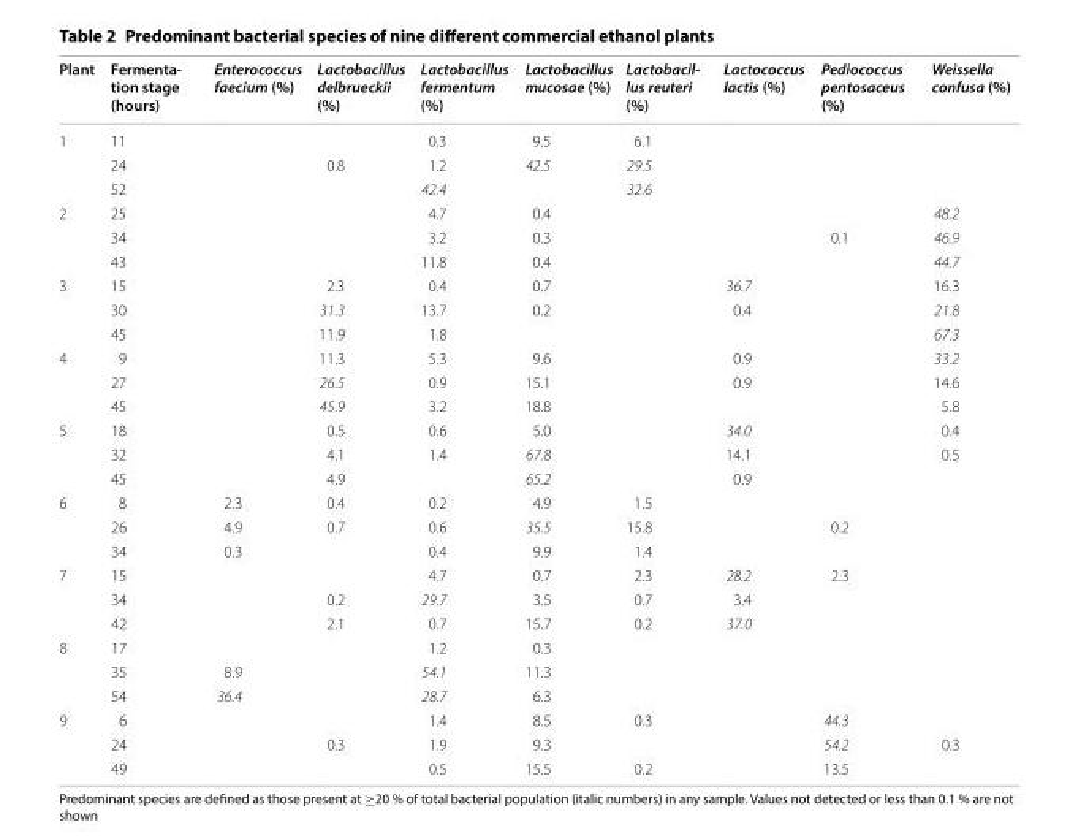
<table><thead><tr><td>Plant</td><td>Fermenta‑ tion stage (hours)</td><td>Enterococcus faecium (%)</td><td>Lactobacillus delbrueckii (%)</td><td>Lactobacillus fermentum (%)</td><td>Lactobacillus mucosae (%)</td><td>Lactobacil- lus reuteri (%)</td><td>Lactococcus lactis (%)</td><td>Pediococcus pentosaceus (%)</td><td>Weissella confusa (%)</td></tr></thead><tbody><tr><td rowspan="3">1</td><td>11</td><td></td><td></td><td>0.3</td><td>9.5</td><td>6.1</td><td></td><td></td><td></td></tr><tr><td>24</td><td></td><td>0.8</td><td>1.2</td><td>42.5</td><td>29.5</td><td></td><td></td><td></td></tr><tr><td>52</td><td></td><td></td><td>42.4</td><td></td><td>32.6</td><td></td><td></td><td></td></tr><tr><td rowspan="3">2</td><td>25</td><td></td><td></td><td>4.7</td><td>0.4</td><td></td><td></td><td></td><td>48.2</td></tr><tr><td>34</td><td></td><td></td><td>3.2</td><td>0.3</td><td></td><td></td><td>0.1</td><td>46.9</td></tr><tr><td>43</td><td></td><td></td><td>11.8</td><td>0.4</td><td></td><td></td><td></td><td>44.7</td></tr><tr><td rowspan="3">3</td><td>15</td><td></td><td>2.3</td><td>0.4</td><td>0.7</td><td></td><td>36.7</td><td></td><td>16.3</td></tr><tr><td>30</td><td></td><td>31.3</td><td>13.7</td><td>0.2</td><td></td><td>0.4</td><td></td><td>21.8</td></tr><tr><td>45</td><td></td><td>11.9</td><td>1.8</td><td></td><td></td><td></td><td></td><td>67.3</td></tr><tr><td rowspan="3">4</td><td>9</td><td></td><td>11.3</td><td>5.3</td><td>9.6</td><td></td><td>0.9</td><td></td><td>33.2</td></tr><tr><td>27</td><td></td><td>26.5</td><td>0.9</td><td>15.1</td><td></td><td>0.9</td><td></td><td>14.6</td></tr><tr><td>45</td><td></td><td>45.9</td><td>3.2</td><td>18.8</td><td></td><td></td><td></td><td>5.8</td></tr><tr><td rowspan="3">5</td><td>18</td><td></td><td>0.5</td><td>0.6</td><td>5.0</td><td></td><td>34.0</td><td></td><td>0.4</td></tr><tr><td>32</td><td></td><td>4.1</td><td>1.4</td><td>67.8</td><td></td><td>14.1</td><td></td><td>0.5</td></tr><tr><td>45</td><td></td><td>4.9</td><td></td><td>65.2</td><td></td><td>0.9</td><td></td><td></td></tr><tr><td rowspan="3">6</td><td>8</td><td>2.3</td><td>0.4</td><td>0.2</td><td>4.9</td><td>1.5</td><td></td><td></td><td></td></tr><tr><td>26</td><td>4.9</td><td>0.7</td><td>0.6</td><td>35.5</td><td>15.8</td><td></td><td>0.2</td><td></td></tr><tr><td>34</td><td>0.3</td><td></td><td>0.4</td><td>9.9</td><td>1.4</td><td></td><td></td><td></td></tr><tr><td rowspan="3">7</td><td>15</td><td></td><td></td><td>4.7</td><td>0.7</td><td>2.3</td><td>28.2</td><td>2.3</td><td></td></tr><tr><td>34</td><td></td><td>0.2</td><td>29.7</td><td>3.5</td><td>0.7</td><td>3.4</td><td></td><td></td></tr><tr><td>42</td><td></td><td>2.1</td><td>0.7</td><td>15.7</td><td>0.2</td><td>37.0</td><td></td><td></td></tr><tr><td rowspan="3">8</td><td>17</td><td></td><td></td><td>1.2</td><td>0.3</td><td></td><td></td><td></td><td></td></tr><tr><td>35</td><td>8.9</td><td></td><td>54.1</td><td>11.3</td><td></td><td></td><td></td><td></td></tr><tr><td>54</td><td>36.4</td><td></td><td>28.7</td><td>6.3</td><td></td><td></td><td></td><td></td></tr><tr><td rowspan="3">9</td><td>6</td><td></td><td></td><td>1.4</td><td>8.5</td><td>0.3</td><td></td><td>44.3</td><td></td></tr><tr><td>24</td><td></td><td>0.3</td><td>1.9</td><td>9.3</td><td></td><td></td><td>54.2</td><td>0.3</td></tr><tr><td>49</td><td></td><td></td><td>0.5</td><td>15.5</td><td>0.2</td><td></td><td>13.5</td><td></td></tr></tbody></table>